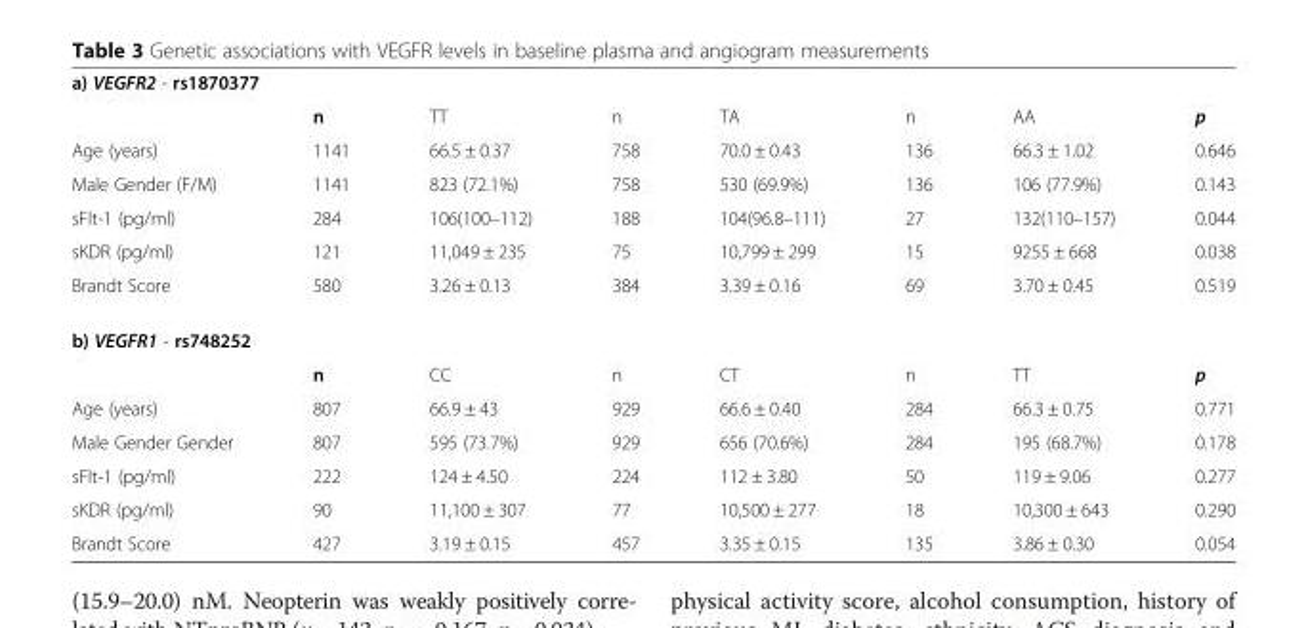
<table><tbody><tr><td colspan="8">a) VEGFR2 - rs1870377</td></tr><tr><td></td><td>n</td><td>TT</td><td>n</td><td>TA</td><td>n</td><td>AA</td><td>p</td></tr><tr><td>Age (years)</td><td>1141</td><td>66.5 ± 0.37</td><td>758</td><td>70.0 ± 0.43</td><td>136</td><td>66.3 ± 1.02</td><td>0.646</td></tr><tr><td>Male Gender (F/M)</td><td>1141</td><td>823 (72.1%)</td><td>758</td><td>530 (69.9%)</td><td>136</td><td>106 (77.9%)</td><td>0.143</td></tr><tr><td>sFlt-1 (pg/ml)</td><td>284</td><td>106(100–112)</td><td>188</td><td>104(96.8–111)</td><td>27</td><td>132(110–157)</td><td>0.044</td></tr><tr><td>sKDR (pg/ml)</td><td>121</td><td>11,049 ± 235</td><td>75</td><td>10,799 ± 299</td><td>15</td><td>9255 ± 668</td><td>0.038</td></tr><tr><td>Brandt Score</td><td>580</td><td>3.26 ± 0.13</td><td>384</td><td>3.39 ± 0.16</td><td>69</td><td>3.70 ± 0.45</td><td>0.519</td></tr><tr><td colspan="8">b) VEGFR1 - rs748252</td></tr><tr><td></td><td>n</td><td>CC</td><td>n</td><td>CT</td><td>n</td><td>TT</td><td>p</td></tr><tr><td>Age (years)</td><td>807</td><td>66.9 ± 43</td><td>929</td><td>66.6 ± 0.40</td><td>284</td><td>66.3 ± 0.75</td><td>0.771</td></tr><tr><td>Male Gender Gender</td><td>807</td><td>595 (73.7%)</td><td>929</td><td>656 (70.6%)</td><td>284</td><td>195 (68.7%)</td><td>0.178</td></tr><tr><td>sFlt-1 (pg/ml)</td><td>222</td><td>124 ± 4.50</td><td>224</td><td>112 ± 3.80</td><td>50</td><td>119 ± 9.06</td><td>0.277</td></tr><tr><td>sKDR (pg/ml)</td><td>90</td><td>11,100 ± 307</td><td>77</td><td>10,500 ± 277</td><td>18</td><td>10,300 ± 643</td><td>0.290</td></tr><tr><td>Brandt Score</td><td>427</td><td>3.19 ± 0.15</td><td>457</td><td>3.35 ± 0.15</td><td>135</td><td>3.86 ± 0.30</td><td>0.054</td></tr></tbody></table>